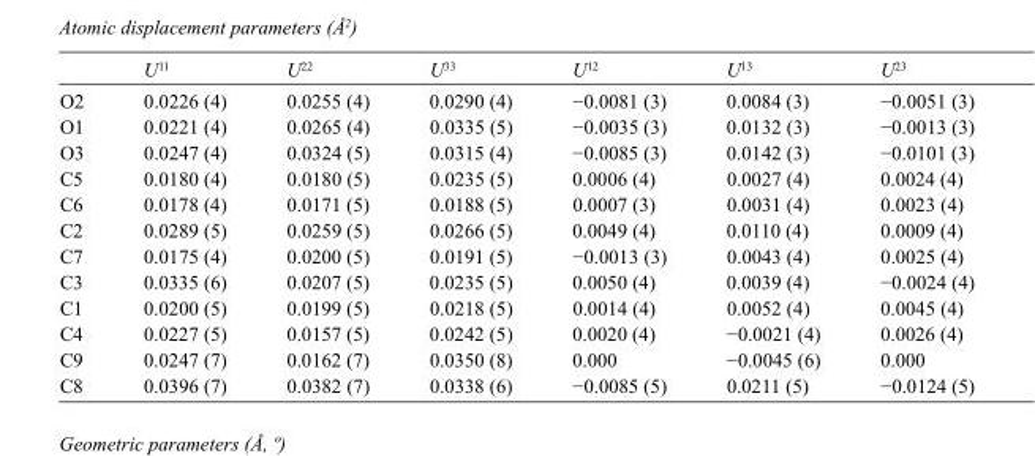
<table><thead><tr><td></td><td>U<sup>11</sup></td><td>U<sup>22</sup></td><td>U<sup>33</sup></td><td>U<sup>12</sup></td><td>U<sup>13</sup></td><td>U<sup>23</sup></td></tr></thead><tbody><tr><td>O2</td><td>0.0226 (4)</td><td>0.0255 (4)</td><td>0.0290 (4)</td><td>−0.0081 (3)</td><td>0.0084 (3)</td><td>−0.0051 (3)</td></tr><tr><td>O1</td><td>0.0221 (4)</td><td>0.0265 (4)</td><td>0.0335 (5)</td><td>−0.0035 (3)</td><td>0.0132 (3)</td><td>−0.0013 (3)</td></tr><tr><td>O3</td><td>0.0247 (4)</td><td>0.0324 (5)</td><td>0.0315 (4)</td><td>−0.0085 (3)</td><td>0.0142 (3)</td><td>−0.0101 (3)</td></tr><tr><td>C5</td><td>0.0180 (4)</td><td>0.0180 (5)</td><td>0.0235 (5)</td><td>0.0006 (4)</td><td>0.0027 (4)</td><td>0.0024 (4)</td></tr><tr><td>C6</td><td>0.0178 (4)</td><td>0.0171 (5)</td><td>0.0188 (5)</td><td>0.0007 (3)</td><td>0.0031 (4)</td><td>0.0023 (4)</td></tr><tr><td>C2</td><td>0.0289 (5)</td><td>0.0259 (5)</td><td>0.0266 (5)</td><td>0.0049 (4)</td><td>0.0110 (4)</td><td>0.0009 (4)</td></tr><tr><td>C7</td><td>0.0175 (4)</td><td>0.0200 (5)</td><td>0.0191 (5)</td><td>−0.0013 (3)</td><td>0.0043 (4)</td><td>0.0025 (4)</td></tr><tr><td>C3</td><td>0.0335 (6)</td><td>0.0207 (5)</td><td>0.0235 (5)</td><td>0.0050 (4)</td><td>0.0039 (4)</td><td>−0.0024 (4)</td></tr><tr><td>C1</td><td>0.0200 (5)</td><td>0.0199 (5)</td><td>0.0218 (5)</td><td>0.0014 (4)</td><td>0.0052 (4)</td><td>0.0045 (4)</td></tr><tr><td>C4</td><td>0.0227 (5)</td><td>0.0157 (5)</td><td>0.0242 (5)</td><td>0.0020 (4)</td><td>−0.0021 (4)</td><td>0.0026 (4)</td></tr><tr><td>C9</td><td>0.0247 (7)</td><td>0.0162 (7)</td><td>0.0350 (8)</td><td>0.000</td><td>−0.0045 (6)</td><td>0.000</td></tr><tr><td>C8</td><td>0.0396 (7)</td><td>0.0382 (7)</td><td>0.0338 (6)</td><td>−0.0085 (5)</td><td>0.0211 (5)</td><td>−0.0124 (5)</td></tr></tbody></table>